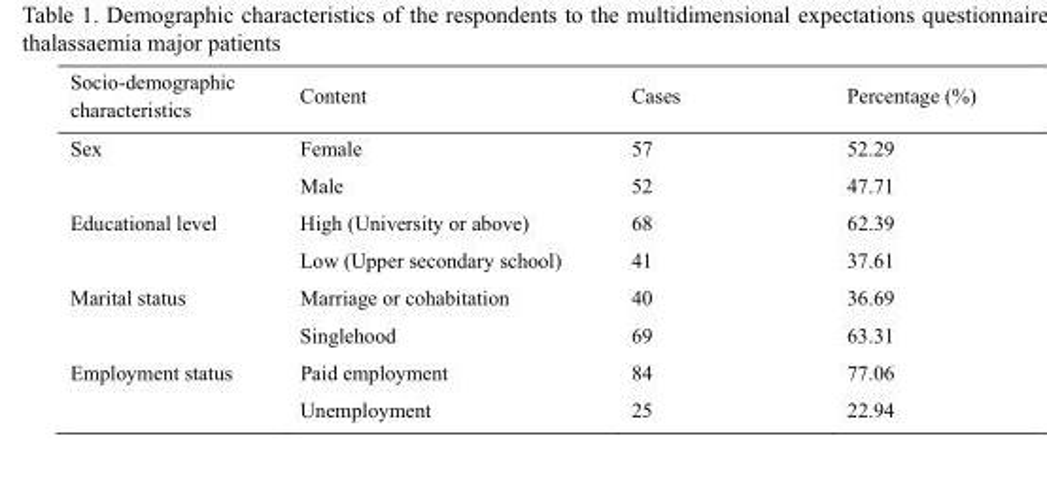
<table><thead><tr><td>Socio-demographic characteristics</td><td>Content</td><td>Cases</td><td>Percentage (%)</td></tr></thead><tbody><tr><td rowspan="2">Sex</td><td>Female</td><td>57</td><td>52.29</td></tr><tr><td>Male</td><td>52</td><td>47.71</td></tr><tr><td rowspan="2">Educational level</td><td>High (University or above)</td><td>68</td><td>62.39</td></tr><tr><td>Low (Upper secondary school)</td><td>41</td><td>37.61</td></tr><tr><td rowspan="2">Marital status</td><td>Marriage or cohabitation</td><td>40</td><td>36.69</td></tr><tr><td>Singlehood</td><td>69</td><td>63.31</td></tr><tr><td rowspan="2">Employment status</td><td>Paid employment</td><td>84</td><td>77.06</td></tr><tr><td>Unemployment</td><td>25</td><td>22.94</td></tr></tbody></table>